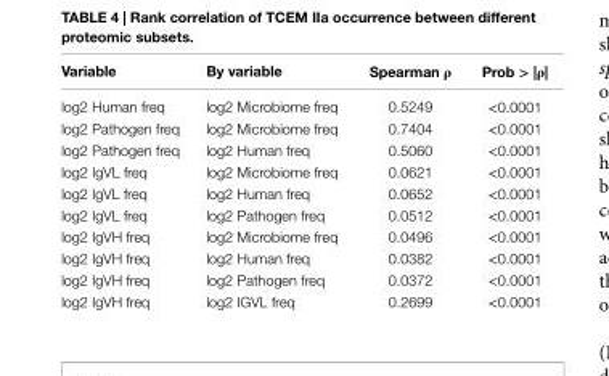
<table><thead><tr><td>Variable</td><td>By variable</td><td>spearman ρ</td><td>Prob &gt; |ρ|</td></tr></thead><tbody><tr><td>log2 Human freq</td><td>log2 Microbiome freq</td><td>0.5249</td><td>&lt;0.0001</td></tr><tr><td>log2 Pathogen freq</td><td>log2 Microbiome freq</td><td>0.7404</td><td>&lt;0.0001</td></tr><tr><td>log2 Pathogen freq</td><td>log2 Human freq</td><td>0.5060</td><td>&lt;0.0001</td></tr><tr><td>log2 IgVL freq</td><td>log2 Microbiome freq</td><td>0.0621</td><td>&lt;0.0001</td></tr><tr><td>log2 IgVL freq</td><td>log2 Human freq</td><td>0.0652</td><td>&lt;0.0001</td></tr><tr><td>log2 IgVL freq</td><td>log2 Pathogen freq</td><td>0.0512</td><td>&lt;0.0001</td></tr><tr><td>log2 IgVH freq</td><td>log2 Microbiome freq</td><td>0.0496</td><td>&lt;0.0001</td></tr><tr><td>log2 IgVH freq</td><td>log2 Human freq</td><td>0.0382</td><td>&lt;0.0001</td></tr><tr><td>log2 IgVH freq</td><td>log2 Pathogen freq</td><td>0.0372</td><td>&lt;0.0001</td></tr><tr><td>log2 IgVH freq</td><td>log2 IGVL freq</td><td>0.2699</td><td>&lt;0.0001</td></tr></tbody></table>